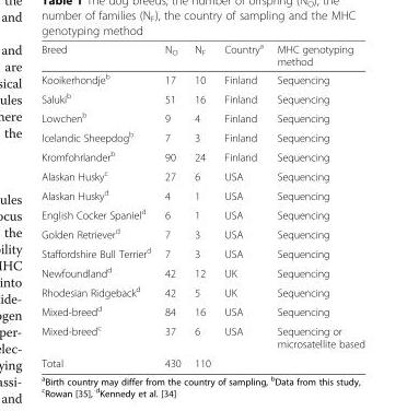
<table><thead><tr><td>Breed</td><td>N<sub>O</sub></td><td>N<sub>F</sub></td><td>Country<sup>a</sup></td><td>MHC genotyping method</td></tr></thead><tbody><tr><td>Kooikerhondje<sup>b</sup></td><td>17</td><td>10</td><td>Finland</td><td>Sequencing</td></tr><tr><td>Saluki<sup>b</sup></td><td>51</td><td>16</td><td>Finland</td><td>Sequencing</td></tr><tr><td>Lowchen<sup>b</sup></td><td>9</td><td>4</td><td>Finland</td><td>Sequencing</td></tr><tr><td>Icelandic Sheepdog<sup>b</sup></td><td>7</td><td>3</td><td>Finland</td><td>Sequencing</td></tr><tr><td>Kromfohrlander<sup>b</sup></td><td>90</td><td>24</td><td>Finland</td><td>Sequencing</td></tr><tr><td>Alaskan Husky<sup>c</sup></td><td>27</td><td>6</td><td>USA</td><td>Sequencing</td></tr><tr><td>Alaskan Husky<sup>d</sup></td><td>4</td><td>1</td><td>USA</td><td>Sequencing</td></tr><tr><td>English Cocker Spaniel<sup>d</sup></td><td>6</td><td>1</td><td>USA</td><td>Sequencing</td></tr><tr><td>Golden Retriever<sup>d</sup></td><td>7</td><td>3</td><td>USA</td><td>Sequencing</td></tr><tr><td>Staffordshire Bull Terrier<sup>d</sup></td><td>7</td><td>3</td><td>USA</td><td>Sequencing</td></tr><tr><td>Newfoundland<sup>d</sup></td><td>42</td><td>12</td><td>UK</td><td>Sequencing</td></tr><tr><td>Rhodesian Ridgeback<sup>d</sup></td><td>42</td><td>5</td><td>UK</td><td>Sequencing</td></tr><tr><td>Mixed-breed<sup>d</sup></td><td>84</td><td>16</td><td>USA</td><td>Sequencing</td></tr><tr><td>Mixed-breed<sup>c</sup></td><td>37</td><td>6</td><td>USA</td><td>Sequencing or microsatellite based</td></tr><tr><td>Total</td><td>430</td><td>110</td><td></td><td></td></tr></tbody></table>